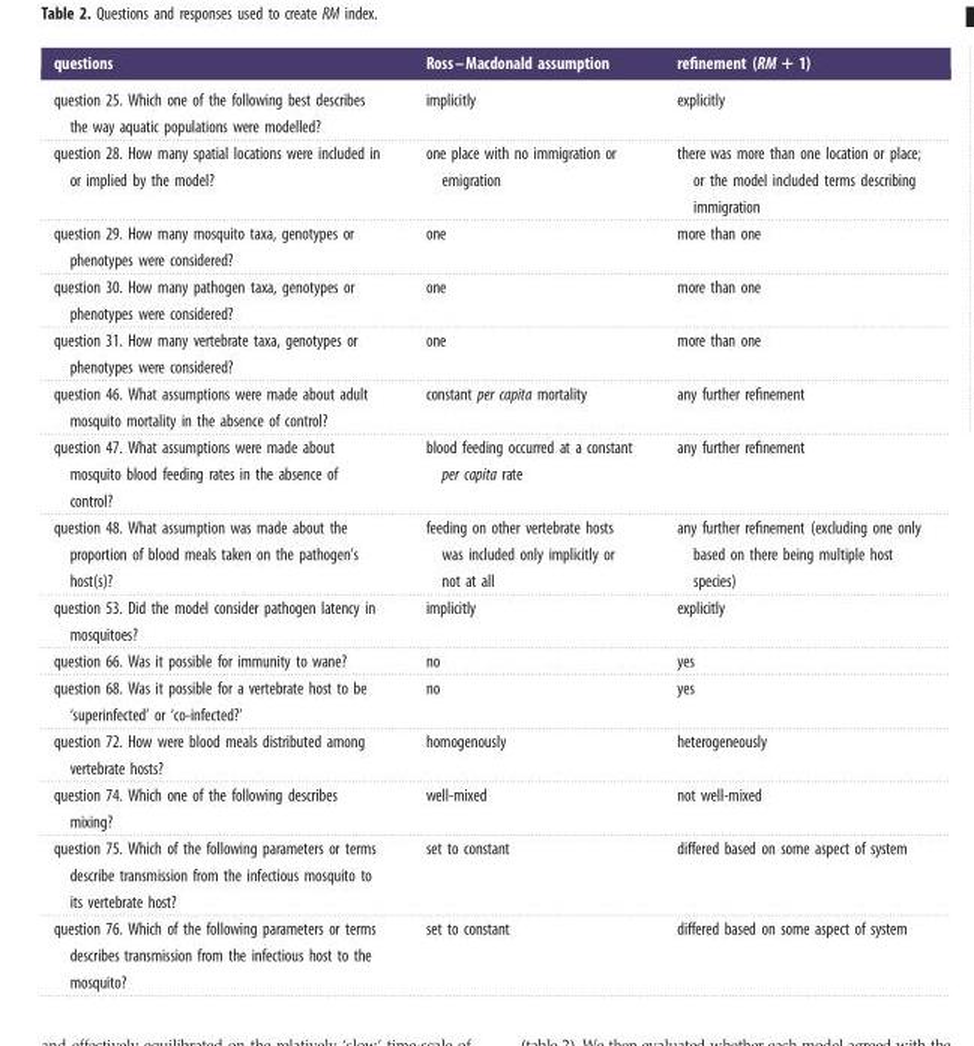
<table><thead><tr><td>questions</td><td>Ross–Macdonald assumption</td><td>refinement (RM + 1)</td></tr></thead><tbody><tr><td>question 25. Which one of the following best describes the way aquatic populations were modelled?</td><td>implicitly</td><td>explicitly</td></tr><tr><td>question 28. How many spatial locations were included in or implied by the model?</td><td>one place with no immigration or emigration</td><td>there was more than one location or place; or the model included terms describing immigration</td></tr><tr><td>question 29. How many mosquito taxa, genotypes or phenotypes were considered?</td><td>one</td><td>more than one</td></tr><tr><td>question 30. How many pathogen taxa, genotypes or phenotypes were considered?</td><td>one</td><td>more than one</td></tr><tr><td>question 31. How many vertebrate taxa, genotypes or phenotypes were considered?</td><td>one</td><td>more than one</td></tr><tr><td>question 46. What assumptions were made about adult mosquito mortality in the absence of control?</td><td>constant per capita mortality</td><td>any further refinement</td></tr><tr><td>question 47. What assumptions were made about mosquito blood feeding rates in the absence of control?</td><td>blood feeding occurred at a constant per capita rate</td><td>any further refinement</td></tr><tr><td>question 48. What assumption was made about the proportion of blood meals taken on the pathogen’s host(s)?</td><td>feeding on other vertebrate hosts was included only implicitly or not at all</td><td>any further refinement (excluding one only based on there being multiple host species)</td></tr><tr><td>question 53. Did the model consider pathogen latency in mosquitoes?</td><td>implicitly</td><td>explicitly</td></tr><tr><td>question 66. Was it possible for immunity to wane?</td><td>no</td><td>yes</td></tr><tr><td>question 68. Was it possible for a vertebrate host to be ‘superinfected’ or ‘co-infected?’</td><td>no</td><td>yes</td></tr><tr><td>question 72. How were blood meals distributed among vertebrate hosts?</td><td>homogenously</td><td>heterogeneously</td></tr><tr><td>question 74. Which one of the following describes mixing?</td><td>well-mixed</td><td>not well-mixed</td></tr><tr><td>question 75. Which of the following parameters or terms describe transmission from the infectious mosquito to its vertebrate host?</td><td>set to constant</td><td>differed based on some aspect of system</td></tr><tr><td>question 76. Which of the following parameters or terms describes transmission from the infectious host to the mosquito?</td><td>set to constant</td><td>differed based on some aspect of system</td></tr></tbody></table>